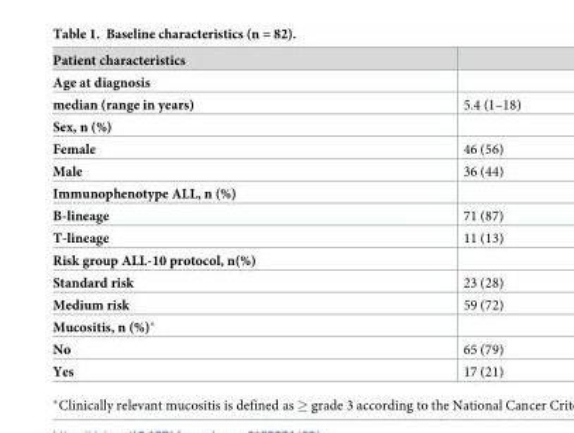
<table><thead><tr><td>Patient characteristics</td><td></td></tr></thead><tbody><tr><td colspan="2">Age at diagnosis</td></tr><tr><td>median (range in years)</td><td>5.4 (1–18)</td></tr><tr><td colspan="2">Sex, n (%)</td></tr><tr><td>Female</td><td>46 (56)</td></tr><tr><td>Male</td><td>36 (44)</td></tr><tr><td colspan="2">Immunophenotype ALL, n (%)</td></tr><tr><td>B-lineage</td><td>71 (87)</td></tr><tr><td>T-lineage</td><td>11 (13)</td></tr><tr><td colspan="2">Risk group ALL-10 protocol, n(%)</td></tr><tr><td>Standard risk</td><td>23 (28)</td></tr><tr><td>Medium risk</td><td>59 (72)</td></tr><tr><td colspan="2">Mucositis, n (%)*</td></tr><tr><td>No</td><td>65 (79)</td></tr><tr><td>Yes</td><td>17 (21)</td></tr></tbody></table>